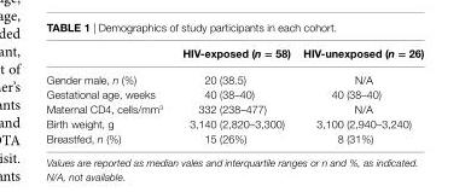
<table><thead><tr><td></td><td>hiV-exposed (n = 58)</td><td>hiV-unexposed (n = 26)</td></tr></thead><tbody><tr><td>Gender male, n (%)</td><td>20 (38.5)</td><td>N/A</td></tr><tr><td>Gestational age, weeks</td><td>40 (38–40)</td><td>40 (38–40)</td></tr><tr><td>Maternal CD4, cells/mm<sup>3</sup></td><td>332 (238–477)</td><td>N/A</td></tr><tr><td>Birth weight, g</td><td>3,140 (2,820–3,300)</td><td>3,100 (2,940–3,240)</td></tr><tr><td>Breastfed, n (%)</td><td>15 (26%)</td><td>8 (31%)</td></tr></tbody></table>